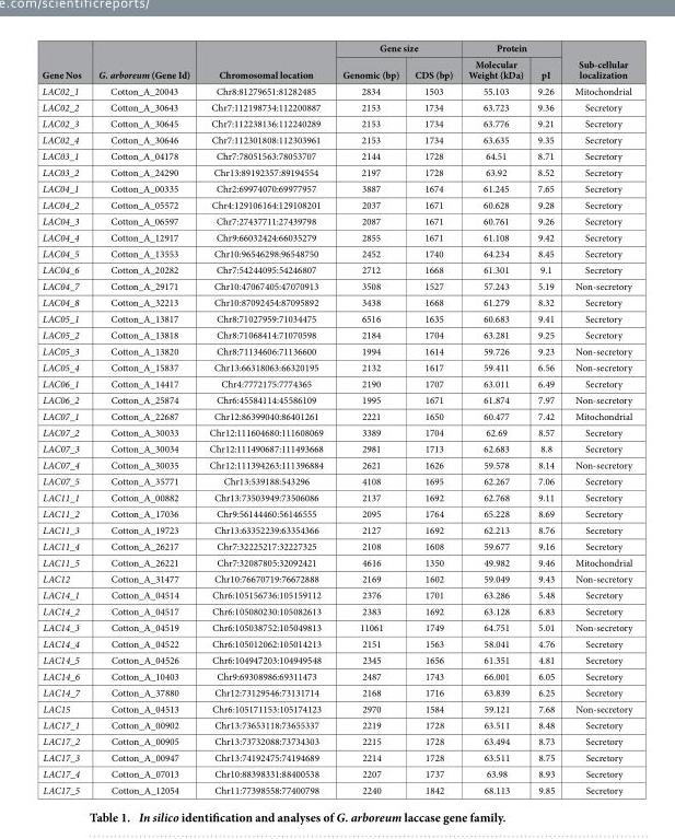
<table><thead><tr><td rowspan="2">Gene Nos</td><td rowspan="2">G. arboreum (Gene Id)</td><td rowspan="2">Chromosomal location</td><td colspan="2">Gene size</td><td colspan="2">Protein</td><td rowspan="2">Sub-cellular localization</td></tr><tr><td>Genomic (bp)</td><td>CDS (bp)</td><td>Molecular Weight (kDa)</td><td>pI</td></tr></thead><tbody><tr><td>LAC02_1</td><td>Cotton_A_20043</td><td>Chr8:81279651:81282485</td><td>2834</td><td>1503</td><td>55.103</td><td>9.26</td><td>Mitochondrial</td></tr><tr><td>LAC02_2</td><td>Cotton_A_30643</td><td>Chr7:112198734:112200887</td><td>2153</td><td>1734</td><td>63.723</td><td>9.36</td><td>Secretory</td></tr><tr><td>LAC02_3</td><td>Cotton_A_30645</td><td>Chr7:112238136:112240289</td><td>2153</td><td>1734</td><td>63.776</td><td>9.21</td><td>Secretory</td></tr><tr><td>LAC02_4</td><td>Cotton_A_30646</td><td>Chr7:112301808:112303961</td><td>2153</td><td>1734</td><td>63.635</td><td>9.35</td><td>Secretory</td></tr><tr><td>LAC03_1</td><td>Cotton_A_04178</td><td>Chr7:78051563:78053707</td><td>2144</td><td>1728</td><td>64.51</td><td>8.71</td><td>Secretory</td></tr><tr><td>LAC03_2</td><td>Cotton_A_24290</td><td>Chr13:89192357:89194554</td><td>2197</td><td>1728</td><td>63.92</td><td>8.52</td><td>Secretory</td></tr><tr><td>LAC04_1</td><td>Cotton_A_00335</td><td>Chr2:69974070:69977957</td><td>3887</td><td>1674</td><td>61.245</td><td>7.65</td><td>Secretory</td></tr><tr><td>LAC04_2</td><td>Cotton_A_05572</td><td>Chr4:129106164:129108201</td><td>2037</td><td>1671</td><td>60.628</td><td>9.28</td><td>Secretory</td></tr><tr><td>LAC04_3</td><td>Cotton_A_06597</td><td>Chr7:27437711:27439798</td><td>2087</td><td>1671</td><td>60.761</td><td>9.26</td><td>Secretory</td></tr><tr><td>LAC04_4</td><td>Cotton_A_12917</td><td>Chr9:66032424:66035279</td><td>2855</td><td>1671</td><td>61.108</td><td>9.42</td><td>Secretory</td></tr><tr><td>LAC04_5</td><td>Cotton_A_13553</td><td>Chr10:96546298:96548750</td><td>2452</td><td>1740</td><td>64.234</td><td>8.45</td><td>Secretory</td></tr><tr><td>LAC04_6</td><td>Cotton_A_20282</td><td>Chr7:54244095:54246807</td><td>2712</td><td>1668</td><td>61.301</td><td>9.1</td><td>Secretory</td></tr><tr><td>LAC04_7</td><td>Cotton_A_29171</td><td>Chr10:47067405:47070913</td><td>3508</td><td>1527</td><td>57.243</td><td>5.19</td><td>Non-secretory</td></tr><tr><td>LAC04_8</td><td>Cotton_A_32213</td><td>Chr10:87092454:87095892</td><td>3438</td><td>1668</td><td>61.279</td><td>8.32</td><td>Secretory</td></tr><tr><td>LAC05_1</td><td>Cotton_A_13817</td><td>Chr8:71027959:71034475</td><td>6516</td><td>1635</td><td>60.683</td><td>9.41</td><td>Secretory</td></tr><tr><td>LAC05_2</td><td>Cotton_A_13818</td><td>Chr8:71068414:71070598</td><td>2184</td><td>1704</td><td>63.281</td><td>9.25</td><td>Secretory</td></tr><tr><td>LAC05_3</td><td>Cotton_A_13820</td><td>Chr8:71134606:71136600</td><td>1994</td><td>1614</td><td>59.726</td><td>9.23</td><td>Non-secretory</td></tr><tr><td>LAC05_4</td><td>Cotton_A_15837</td><td>Chr13:66318063:66320195</td><td>2132</td><td>1617</td><td>59.411</td><td>6.56</td><td>Non-secretory</td></tr><tr><td>LAC06_1</td><td>Cotton_A_14417</td><td>Chr4:7772175:7774365</td><td>2190</td><td>1707</td><td>63.011</td><td>6.49</td><td>Secretory</td></tr><tr><td>LAC06_2</td><td>Cotton_A_25874</td><td>Chr6:45584114:45586109</td><td>1995</td><td>1671</td><td>61.874</td><td>7.97</td><td>Non-secretory</td></tr><tr><td>LAC07_1</td><td>Cotton_A_22687</td><td>Chr12:86399040:86401261</td><td>2221</td><td>1650</td><td>60.477</td><td>7.42</td><td>Mitochondrial</td></tr><tr><td>LAC07_2</td><td>Cotton_A_30033</td><td>Chr12:111604680:111608069</td><td>3389</td><td>1704</td><td>62.69</td><td>8.57</td><td>Secretory</td></tr><tr><td>LAC07_3</td><td>Cotton_A_30034</td><td>Chr12:111490687:111493668</td><td>2981</td><td>1713</td><td>62.683</td><td>8.8</td><td>Secretory</td></tr><tr><td>LAC07_4</td><td>Cotton_A_30035</td><td>Chr12:111394263:111396884</td><td>2621</td><td>1626</td><td>59.578</td><td>8.14</td><td>Non-secretory</td></tr><tr><td>LAC07_5</td><td>Cotton_A_35771</td><td>Chr13:539188:543296</td><td>4108</td><td>1695</td><td>62.267</td><td>7.06</td><td>Secretory</td></tr><tr><td>LAC11_1</td><td>Cotton_A_00882</td><td>Chr13:73503949:73506086</td><td>2137</td><td>1692</td><td>62.768</td><td>9.11</td><td>Secretory</td></tr><tr><td>LAC11_2</td><td>Cotton_A_17036</td><td>Chr9:56144460:56146555</td><td>2095</td><td>1764</td><td>65.228</td><td>8.69</td><td>Secretory</td></tr><tr><td>LAC11_3</td><td>Cotton_A_19723</td><td>Chr13:63352239:63354366</td><td>2127</td><td>1692</td><td>62.213</td><td>8.76</td><td>Secretory</td></tr><tr><td>LAC11_4</td><td>Cotton_A_26217</td><td>Chr7:32225217:32227325</td><td>2108</td><td>1608</td><td>59.677</td><td>9.16</td><td>Secretory</td></tr><tr><td>LAC11_5</td><td>Cotton_A_26221</td><td>Chr7:32087805:32092421</td><td>4616</td><td>1350</td><td>49.982</td><td>9.46</td><td>Mitochondrial</td></tr><tr><td>LAC12</td><td>Cotton_A_31477</td><td>Chr10:76670719:76672888</td><td>2169</td><td>1602</td><td>59.049</td><td>9.43</td><td>Non-secretory</td></tr><tr><td>LAC14_1</td><td>Cotton_A_04514</td><td>Chr6:105156736:105159112</td><td>2376</td><td>1701</td><td>63.286</td><td>5.48</td><td>Secretory</td></tr><tr><td>LAC14_2</td><td>Cotton_A_04517</td><td>Chr6:105080230:105082613</td><td>2383</td><td>1692</td><td>63.128</td><td>6.83</td><td>Secretory</td></tr><tr><td>LAC14_3</td><td>Cotton_A_04519</td><td>Chr6:105038752:105049813</td><td>11061</td><td>1749</td><td>64.751</td><td>5.01</td><td>Non-secretory</td></tr><tr><td>LAC14_4</td><td>Cotton_A_04522</td><td>Chr6:105012062:105014213</td><td>2151</td><td>1563</td><td>58.041</td><td>4.76</td><td>Secretory</td></tr><tr><td>LAC14_5</td><td>Cotton_A_04526</td><td>Chr6:104947203:104949548</td><td>2345</td><td>1656</td><td>61.351</td><td>4.81</td><td>Secretory</td></tr><tr><td>LAC14_6</td><td>Cotton_A_10403</td><td>Chr9:69308986:69311473</td><td>2487</td><td>1743</td><td>66.001</td><td>6.05</td><td>Secretory</td></tr><tr><td>LAC14_7</td><td>Cotton_A_37880</td><td>Chr12:73129546:73131714</td><td>2168</td><td>1716</td><td>63.839</td><td>6.25</td><td>Secretory</td></tr><tr><td>LAC15</td><td>Cotton_A_04513</td><td>Chr6:105171153:105174123</td><td>2970</td><td>1584</td><td>59.121</td><td>7.68</td><td>Non-secretory</td></tr><tr><td>LAC17_1</td><td>Cotton_A_00902</td><td>Chr13:73653118:73655337</td><td>2219</td><td>1728</td><td>63.511</td><td>8.48</td><td>Secretory</td></tr><tr><td>LAC17_2</td><td>Cotton_A_00905</td><td>Chr13:73732088:73734303</td><td>2215</td><td>1728</td><td>63.494</td><td>8.73</td><td>Secretory</td></tr><tr><td>LAC17_3</td><td>Cotton_A_00947</td><td>Chr13:74192475:74194689</td><td>2214</td><td>1728</td><td>63.511</td><td>8.75</td><td>Secretory</td></tr><tr><td>LAC17_4</td><td>Cotton_A_07013</td><td>Chr10:88398331:88400538</td><td>2207</td><td>1737</td><td>63.98</td><td>8.93</td><td>Secretory</td></tr><tr><td>LAC17_5</td><td>Cotton_A_12054</td><td>Chr11:77398558:77400798</td><td>2240</td><td>1842</td><td>68.113</td><td>9.85</td><td>Secretory</td></tr></tbody></table>